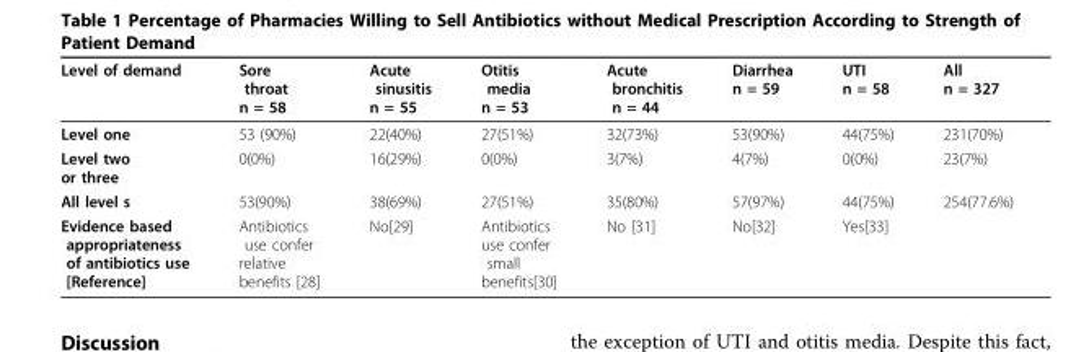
<table><thead><tr><td>Level of demand</td><td>Sore throat n = 58</td><td>Acute sinusitis n = 55</td><td>Otitis media n = 53</td><td>Acute bronchitis n = 44</td><td>Diarrhea n = 59</td><td>UTI n = 58</td><td>All n = 327</td></tr></thead><tbody><tr><td>Level one</td><td>53 (90%)</td><td>22(40%)</td><td>27(51%)</td><td>32(73%)</td><td>53(90%)</td><td>44(75%)</td><td>231(70%)</td></tr><tr><td>Level two or three</td><td>0(0%)</td><td>16(29%)</td><td>0(0%)</td><td>3(7%)</td><td>4(7%)</td><td>0(0%)</td><td>23(7%)</td></tr><tr><td>All level s</td><td>53(90%)</td><td>38(69%)</td><td>27(51%)</td><td>35(80%)</td><td>57(97%)</td><td>44(75%)</td><td>254(77.6%)</td></tr><tr><td>Evidence based appropriateness of antibiotics use [Reference]</td><td>Antibiotics use confer relative benefits [28]</td><td>No[29]</td><td>Antibiotics use confer small benefits[30]</td><td>No [31]</td><td>No[32]</td><td>Yes[33]</td><td></td></tr></tbody></table>